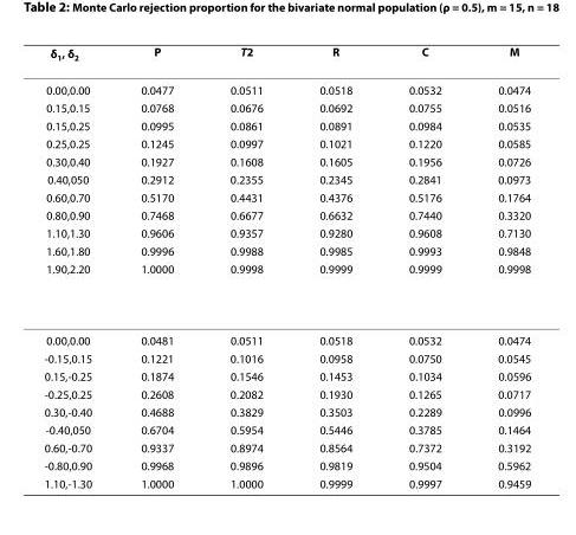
<table><thead><tr><td>δ<sub>1</sub>, δ<sub>2</sub></td><td>P</td><td>T<sup>2</sup></td><td>R</td><td>C</td><td>M</td></tr></thead><tbody><tr><td>0.00,0.00</td><td>0.0477</td><td>0.0511</td><td>0.0518</td><td>0.0532</td><td>0.0474</td></tr><tr><td>0.15,0.15</td><td>0.0768</td><td>0.0676</td><td>0.0692</td><td>0.0755</td><td>0.0516</td></tr><tr><td>0.15,0.25</td><td>0.0995</td><td>0.0861</td><td>0.0891</td><td>0.0984</td><td>0.0535</td></tr><tr><td>0.25,0.25</td><td>0.1245</td><td>0.0997</td><td>0.1021</td><td>0.1220</td><td>0.0585</td></tr><tr><td>0.30,0.40</td><td>0.1927</td><td>0.1608</td><td>0.1605</td><td>0.1956</td><td>0.0726</td></tr><tr><td>0.40,050</td><td>0.2912</td><td>0.2355</td><td>0.2345</td><td>0.2841</td><td>0.0973</td></tr><tr><td>0.60,0.70</td><td>0.5170</td><td>0.4431</td><td>0.4376</td><td>0.5176</td><td>0.1764</td></tr><tr><td>0.80,0.90</td><td>0.7468</td><td>0.6677</td><td>0.6632</td><td>0.7440</td><td>0.3320</td></tr><tr><td>1.10,1.30</td><td>0.9606</td><td>0.9357</td><td>0.9280</td><td>0.9608</td><td>0.7130</td></tr><tr><td>1.60,1.80</td><td>0.9996</td><td>0.9988</td><td>0.9985</td><td>0.9993</td><td>0.9848</td></tr><tr><td>1.90,2.20</td><td>1.0000</td><td>0.9998</td><td>0.9999</td><td>0.9999</td><td>0.9998</td></tr><tr><td>0.00,0.00</td><td>0.0481</td><td>0.0511</td><td>0.0518</td><td>0.0532</td><td>0.0474</td></tr><tr><td>-0.15,0.15</td><td>0.1221</td><td>0.1016</td><td>0.0958</td><td>0.0750</td><td>0.0545</td></tr><tr><td>0.15,-0.25</td><td>0.1874</td><td>0.1546</td><td>0.1453</td><td>0.1034</td><td>0.0596</td></tr><tr><td>-0.25,0.25</td><td>0.2608</td><td>0.2082</td><td>0.1930</td><td>0.1265</td><td>0.0717</td></tr><tr><td>0.30,-0.40</td><td>0.4688</td><td>0.3829</td><td>0.3503</td><td>0.2289</td><td>0.0996</td></tr><tr><td>-0.40,050</td><td>0.6704</td><td>0.5954</td><td>0.5446</td><td>0.3785</td><td>0.1464</td></tr><tr><td>0.60,-0.70</td><td>0.9337</td><td>0.8974</td><td>0.8564</td><td>0.7372</td><td>0.3192</td></tr><tr><td>-0.80,0.90</td><td>0.9968</td><td>0.9896</td><td>0.9819</td><td>0.9504</td><td>0.5962</td></tr><tr><td>1.10,-1.30</td><td>1.0000</td><td>1.0000</td><td>0.9999</td><td>0.9997</td><td>0.9459</td></tr></tbody></table>